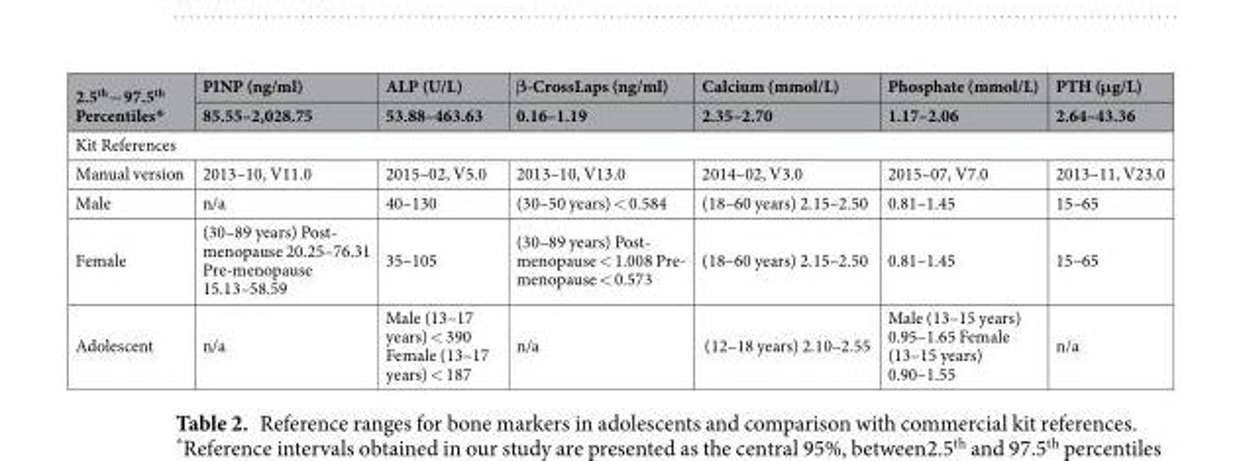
<table><thead><tr><td rowspan="2">2.5<sup>th</sup>−97.5<sup>th</sup> Percentiles*</td><td rowspan="2">PINP (ng/ml) 85.55–2,028.75</td><td rowspan="2">ALP (U/L) 53.88–463.63</td><td rowspan="2">β-CrossLaps (ng/ml) 0.16–1.19</td><td rowspan="2">Calcium (mmol/L) 2.35–2.70</td><td rowspan="2">Phosphate (mmol/L) 1.17–2.06</td><td rowspan="2">PTH (μg/L) 2.64–43.36</td></tr><tr></tr></thead><tbody><tr><td colspan="7">Kit References</td></tr><tr><td>Manual version</td><td>2013–10, V11.0</td><td>2015–02, V5.0</td><td>2013–10, V13.0</td><td>2014–02, V3.0</td><td>2015–07, V7.0</td><td>2013–11, V23.0</td></tr><tr><td>Male</td><td>n/a</td><td>40–130</td><td>(30–50 years) &lt; 0.584</td><td>(18–60 years) 2.15–2.50</td><td>0.81–1.45</td><td>15–65</td></tr><tr><td>Female</td><td>(30–89 years) Post- menopause 20.25–76.31 Pre-menopause 15.13–58.59</td><td>35–105</td><td>(30–89 years) Post- menopause &lt; 1.008 Pre- menopause &lt; 0.573</td><td>(18–60 years) 2.15–2.50</td><td>0.81–1.45</td><td>15–65</td></tr><tr><td>Adolescent</td><td>n/a</td><td>Male (13–17 years) &lt; 390 Female (13–17 years) &lt; 187</td><td>n/a</td><td>(12–18 years) 2.10–2.55</td><td>Male (13–15 years) 0.95–1.65 Female (13–15 years) 0.90–1.55</td><td>n/a</td></tr></tbody></table>